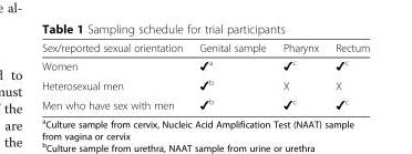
<table><thead><tr><td>Sex/reported sexual orientation</td><td>Genital sample</td><td>Pharynx</td><td>Rectum</td></tr></thead><tbody><tr><td>Women</td><td>✔<sup>a</sup></td><td>✔<sup>c</sup></td><td>✔<sup>c</sup></td></tr><tr><td>Heterosexual men</td><td>✔<sup>b</sup></td><td>X</td><td>X</td></tr><tr><td>Men who have sex with men</td><td>✔<sup>b</sup></td><td>✔<sup>c</sup></td><td>✔<sup>c</sup></td></tr></tbody></table>